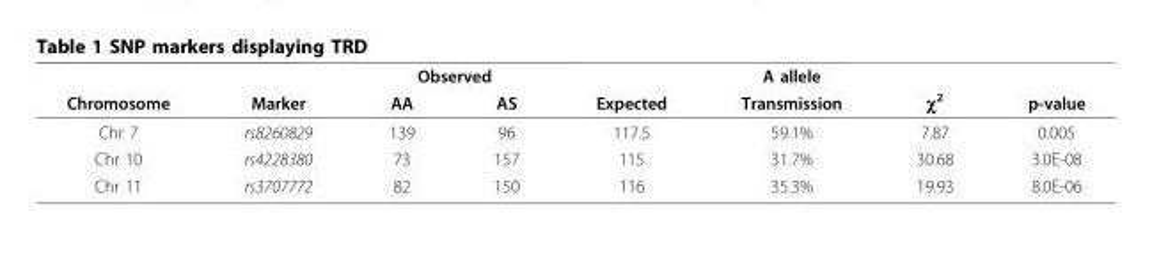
<table><thead><tr><td rowspan="2">Chromosome</td><td rowspan="2">Marker</td><td colspan="2">Observed</td><td rowspan="2">Expected</td><td rowspan="2">A allele Transmission</td><td rowspan="2">χ<sup>2</sup></td><td rowspan="2">p-value</td></tr><tr><td>AA</td><td>AS</td></tr></thead><tbody><tr><td>Chr 7</td><td>rs8260829</td><td>139</td><td>96</td><td>117.5</td><td>59.1%</td><td>7.87</td><td>0.005</td></tr><tr><td>Chr 10</td><td>rs4228380</td><td>73</td><td>157</td><td>115</td><td>31.7%</td><td>30.68</td><td>3.0E-08</td></tr><tr><td>Chr 11</td><td>rs3707772</td><td>82</td><td>150</td><td>116</td><td>35.3%</td><td>19.93</td><td>8.0E-06</td></tr></tbody></table>